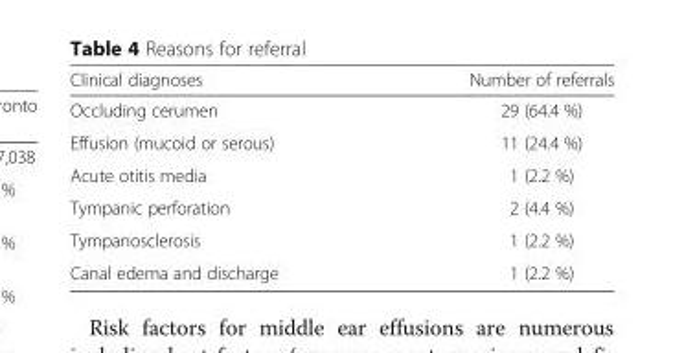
<table><thead><tr><td>Clinical diagnoses</td><td>Number of referrals</td></tr></thead><tbody><tr><td>Occluding cerumen</td><td>29 (64.4 %)</td></tr><tr><td>Effusion (mucoid or serous)</td><td>11 (24.4 %)</td></tr><tr><td>Acute otitis media</td><td>1 (2.2 %)</td></tr><tr><td>Tympanic perforation</td><td>2 (4.4 %)</td></tr><tr><td>Tympanosclerosis</td><td>1 (2.2 %)</td></tr><tr><td>Canal edema and discharge</td><td>1 (2.2 %)</td></tr></tbody></table>